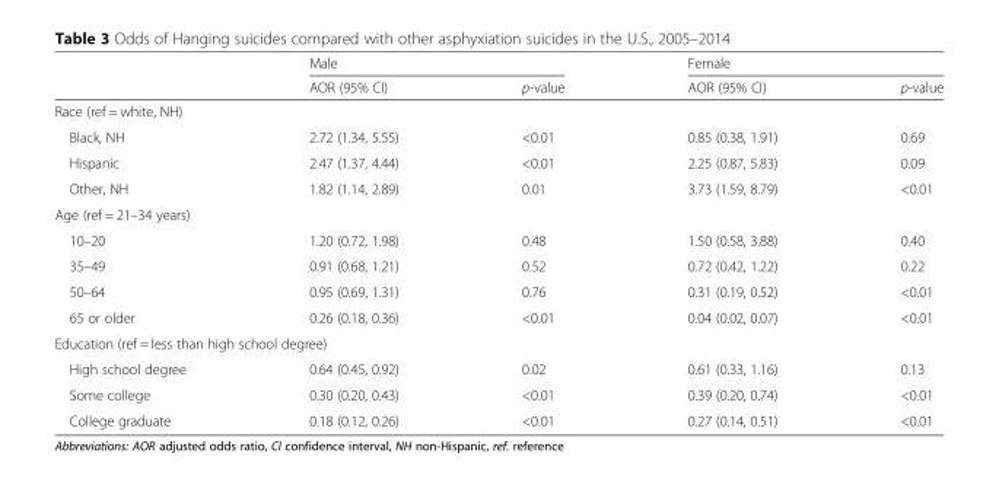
<table><thead><tr><td rowspan="2"></td><td colspan="2">Male</td><td colspan="2">Female</td></tr><tr><td>AOR (95% CI)</td><td>p-value</td><td>AOR (95% CI)</td><td>p-value</td></tr></thead><tbody><tr><td colspan="5">Race (ref = white, NH)</td></tr><tr><td>Black, NH</td><td>2.72 (1.34, 5.55)</td><td>&lt;0.01</td><td>0.85 (0.38, 1.91)</td><td>0.69</td></tr><tr><td>Hispanic</td><td>2.47 (1.37, 4.44)</td><td>&lt;0.01</td><td>2.25 (0.87, 5.83)</td><td>0.09</td></tr><tr><td>Other, NH</td><td>1.82 (1.14, 2.89)</td><td>0.01</td><td>3.73 (1.59, 8.79)</td><td>&lt;0.01</td></tr><tr><td colspan="5">Age (ref = 21–34 years)</td></tr><tr><td>10–20</td><td>1.20 (0.72, 1.98)</td><td>0.48</td><td>1.50 (0.58, 3.88)</td><td>0.40</td></tr><tr><td>35–49</td><td>0.91 (0.68, 1.21)</td><td>0.52</td><td>0.72 (0.42, 1.22)</td><td>0.22</td></tr><tr><td>50–64</td><td>0.95 (0.69, 1.31)</td><td>0.76</td><td>0.31 (0.19, 0.52)</td><td>&lt;0.01</td></tr><tr><td>65 or older</td><td>0.26 (0.18, 0.36)</td><td>&lt;0.01</td><td>0.04 (0.02, 0.07)</td><td>&lt;0.01</td></tr><tr><td colspan="5">Education (ref = less than high school degree)</td></tr><tr><td>High school degree</td><td>0.64 (0.45, 0.92)</td><td>0.02</td><td>0.61 (0.33, 1.16)</td><td>0.13</td></tr><tr><td>Some college</td><td>0.30 (0.20, 0.43)</td><td>&lt;0.01</td><td>0.39 (0.20, 0.74)</td><td>&lt;0.01</td></tr><tr><td>College graduate</td><td>0.18 (0.12, 0.26)</td><td>&lt;0.01</td><td>0.27 (0.14, 0.51)</td><td>&lt;0.01</td></tr></tbody></table>